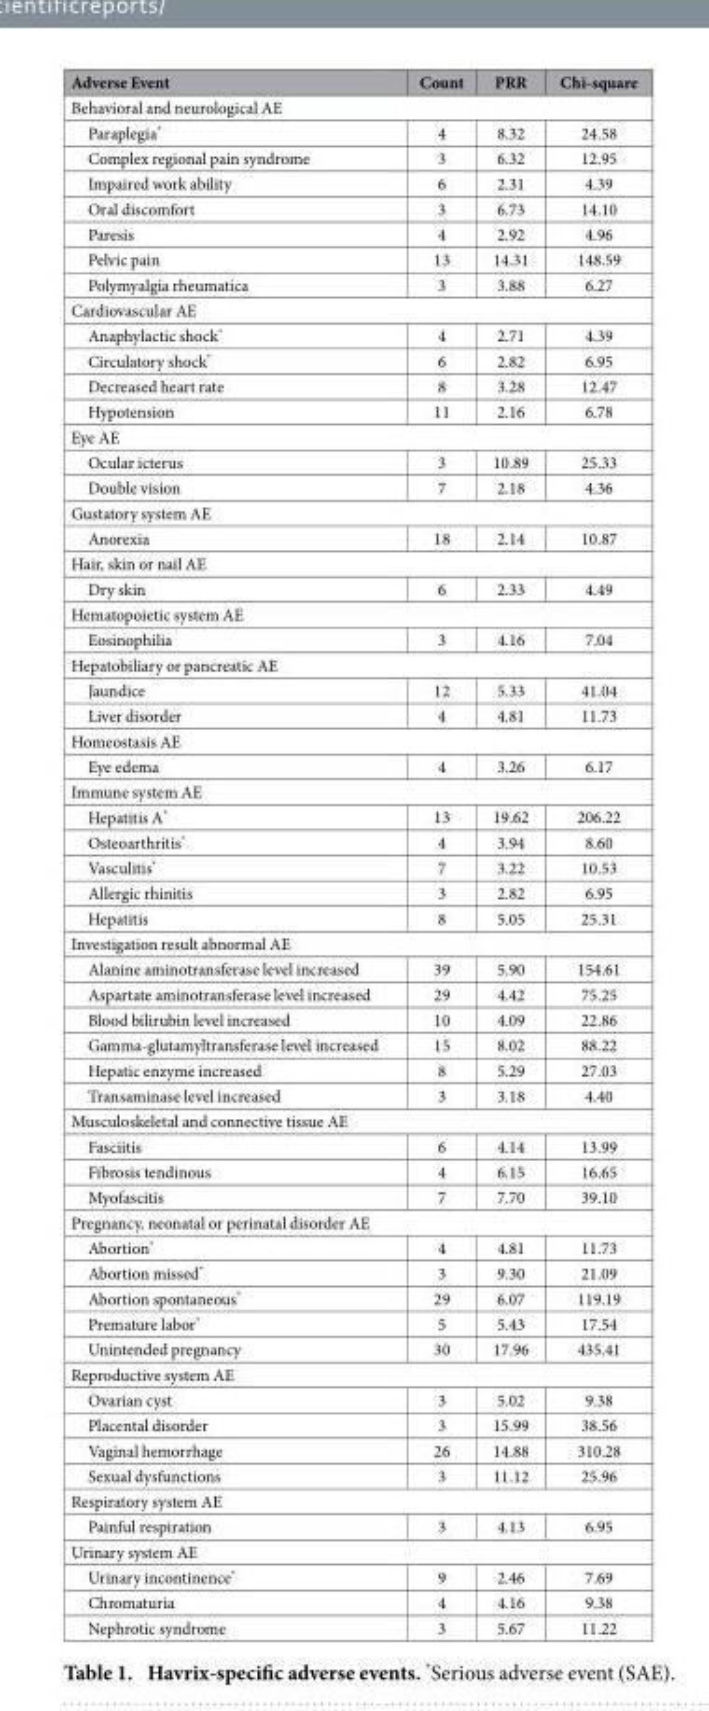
<table><thead><tr><td>Adverse Event</td><td>Count</td><td>PRR</td><td>Chi-square</td></tr></thead><tbody><tr><td colspan="4">Behavioral and neurological AE</td></tr><tr><td>Paraplegia*</td><td>4</td><td>8.32</td><td>24.58</td></tr><tr><td>Complex regional pain syndrome</td><td>3</td><td>6.32</td><td>12.95</td></tr><tr><td>Impaired work ability</td><td>6</td><td>2.31</td><td>4.39</td></tr><tr><td>Oral discomfort</td><td>3</td><td>6.73</td><td>14.10</td></tr><tr><td>Paresis</td><td>4</td><td>2.92</td><td>4.96</td></tr><tr><td>Pelvic pain</td><td>13</td><td>14.31</td><td>148.59</td></tr><tr><td>Polymyalgia rheumatica</td><td>3</td><td>3.88</td><td>6.27</td></tr><tr><td colspan="4">Cardiovascular AE</td></tr><tr><td>Anaphylactic shock*</td><td>4</td><td>2.71</td><td>4.39</td></tr><tr><td>Circulatory shock*</td><td>6</td><td>2.82</td><td>6.95</td></tr><tr><td>Decreased heart rate</td><td>8</td><td>3.28</td><td>12.47</td></tr><tr><td>Hypotension</td><td>11</td><td>2.16</td><td>6.78</td></tr><tr><td colspan="4">Eye AE</td></tr><tr><td>Ocular icterus</td><td>3</td><td>10.89</td><td>25.33</td></tr><tr><td>Double vision</td><td>7</td><td>2.18</td><td>4.36</td></tr><tr><td colspan="4">Gustatory system AE</td></tr><tr><td>Anorexia</td><td>18</td><td>2.14</td><td>10.87</td></tr><tr><td colspan="4">Hair, skin or nail AE</td></tr><tr><td>Dry skin</td><td>6</td><td>2.33</td><td>4.49</td></tr><tr><td colspan="4">Hematopoietic system AE</td></tr><tr><td>Eosinophilia</td><td>3</td><td>4.16</td><td>7.04</td></tr><tr><td colspan="4">Hepatobiliary or pancreatic AE</td></tr><tr><td>Jaundice</td><td>12</td><td>5.33</td><td>41.04</td></tr><tr><td>Liver disorder</td><td>4</td><td>4.81</td><td>11.73</td></tr><tr><td colspan="4">Homeostasis AE</td></tr><tr><td>Eye edema</td><td>4</td><td>3.26</td><td>6.17</td></tr><tr><td colspan="4">Immune system AE</td></tr><tr><td>Hepatitis A*</td><td>13</td><td>19.62</td><td>206.22</td></tr><tr><td>Osteoarthritis*</td><td>4</td><td>3.94</td><td>8.60</td></tr><tr><td>Vasculitis*</td><td>7</td><td>3.22</td><td>10.53</td></tr><tr><td>Allergic rhinitis</td><td>3</td><td>2.82</td><td>6.95</td></tr><tr><td>Hepatitis</td><td>8</td><td>5.05</td><td>25.31</td></tr><tr><td colspan="4">Investigation result abnormal AE</td></tr><tr><td>Alanine aminotransferase level increased</td><td>39</td><td>5.90</td><td>154.61</td></tr><tr><td>Aspartate aminotransferase level increased</td><td>29</td><td>4.42</td><td>75.25</td></tr><tr><td>Blood bilirubin level increased</td><td>10</td><td>4.09</td><td>22.86</td></tr><tr><td>Gamma-glutamyltransferase level increased</td><td>15</td><td>8.02</td><td>88.22</td></tr><tr><td>Hepatic enzyme increased</td><td>8</td><td>5.29</td><td>27.03</td></tr><tr><td>Transaminase level increased</td><td>3</td><td>3.18</td><td>4.40</td></tr><tr><td colspan="4">Musculoskeletal and connective tissue AE</td></tr><tr><td>Fasciitis</td><td>6</td><td>4.14</td><td>13.99</td></tr><tr><td>Fibrosis tendinous</td><td>4</td><td>6.15</td><td>16.65</td></tr><tr><td>Myofascitis</td><td>7</td><td>7.70</td><td>39.10</td></tr><tr><td colspan="4">Pregnancy, neonatal or perinatal disorder AE</td></tr><tr><td>Abortion*</td><td>4</td><td>4.81</td><td>11.73</td></tr><tr><td>Abortion missed*</td><td>3</td><td>9.30</td><td>21.09</td></tr><tr><td>Abortion spontaneous*</td><td>29</td><td>6.07</td><td>119.19</td></tr><tr><td>Premature labor*</td><td>5</td><td>5.43</td><td>17.54</td></tr><tr><td>Unintended pregnancy</td><td>30</td><td>17.96</td><td>435.41</td></tr><tr><td colspan="4">Reproductive system AE</td></tr><tr><td>Ovarian cyst</td><td>3</td><td>5.02</td><td>9.38</td></tr><tr><td>Placental disorder</td><td>3</td><td>15.99</td><td>38.56</td></tr><tr><td>Vaginal hemorrhage</td><td>26</td><td>14.88</td><td>310.28</td></tr><tr><td>Sexual dysfunctions</td><td>3</td><td>11.12</td><td>25.96</td></tr><tr><td colspan="4">Respiratory system AE</td></tr><tr><td>Painful respiration</td><td>3</td><td>4.13</td><td>6.95</td></tr><tr><td colspan="4">Urinary system AE</td></tr><tr><td>Urinary incontinence*</td><td>9</td><td>2.46</td><td>7.69</td></tr><tr><td>Chromaturia</td><td>4</td><td>4.16</td><td>9.38</td></tr><tr><td>Nephrotic syndrome</td><td>3</td><td>5.67</td><td>11.22</td></tr></tbody></table>